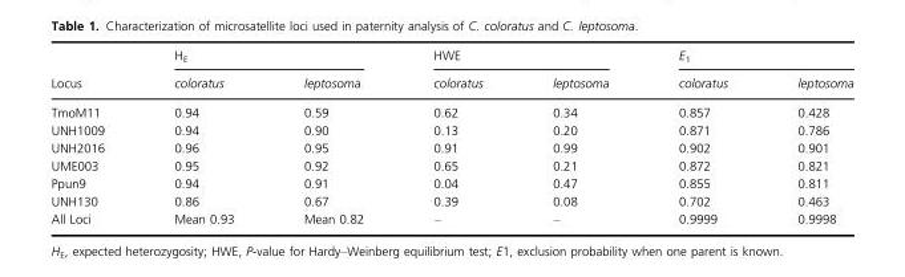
<table><thead><tr><td rowspan="2">Locus</td><td colspan="2">H<sub>E</sub></td><td colspan="2">HWE</td><td colspan="2">E<sub>1</sub></td></tr><tr><td>coloratus</td><td>leptosoma</td><td>coloratus</td><td>leptosoma</td><td>coloratus</td><td>leptosoma</td></tr></thead><tbody><tr><td>TmoM11</td><td>0.94</td><td>0.59</td><td>0.62</td><td>0.34</td><td>0.857</td><td>0.428</td></tr><tr><td>UNH1009</td><td>0.94</td><td>0.90</td><td>0.13</td><td>0.20</td><td>0.871</td><td>0.786</td></tr><tr><td>UNH2016</td><td>0.96</td><td>0.95</td><td>0.91</td><td>0.99</td><td>0.902</td><td>0.901</td></tr><tr><td>UME003</td><td>0.95</td><td>0.92</td><td>0.65</td><td>0.21</td><td>0.872</td><td>0.821</td></tr><tr><td>Ppun9</td><td>0.94</td><td>0.91</td><td>0.04</td><td>0.47</td><td>0.855</td><td>0.811</td></tr><tr><td>UNH130</td><td>0.86</td><td>0.67</td><td>0.39</td><td>0.08</td><td>0.702</td><td>0.463</td></tr><tr><td>All Loci</td><td>Mean 0.93</td><td>Mean 0.82</td><td>–</td><td>–</td><td>0.9999</td><td>0.9998</td></tr></tbody></table>